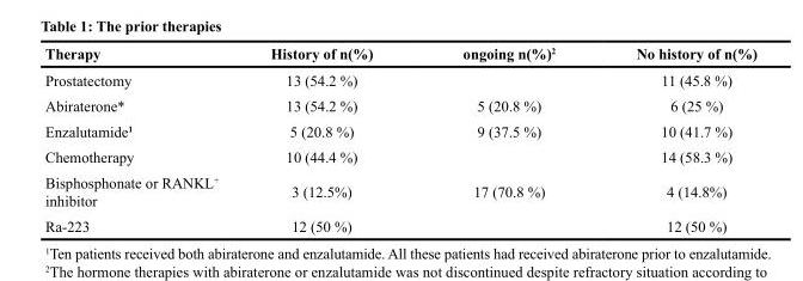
<table><thead><tr><td>Therapy</td><td>History of n(%)</td><td>ongoing n(%)<sup>2</sup></td><td>No history of n(%)</td></tr></thead><tbody><tr><td>Prostatectomy</td><td>13 (54.2 %)</td><td></td><td>11 (45.8 %)</td></tr><tr><td>Abiraterone*</td><td>13 (54.2 %)</td><td>5 (20.8 %)</td><td>6 (25 %)</td></tr><tr><td>Enzalutamide<sup>1</sup></td><td>5 (20.8 %)</td><td>9 (37.5 %)</td><td>10 (41.7 %)</td></tr><tr><td>Chemotherapy</td><td>10 (44.4 %)</td><td></td><td>14 (58.3 %)</td></tr><tr><td>Bisphosphonate or RANKL<sup>+</sup> inhibitor</td><td>3 (12.5%)</td><td>17 (70.8 %)</td><td>4 (14.8%)</td></tr><tr><td>Ra-223</td><td>12 (50 %)</td><td></td><td>12 (50 %)</td></tr></tbody></table>